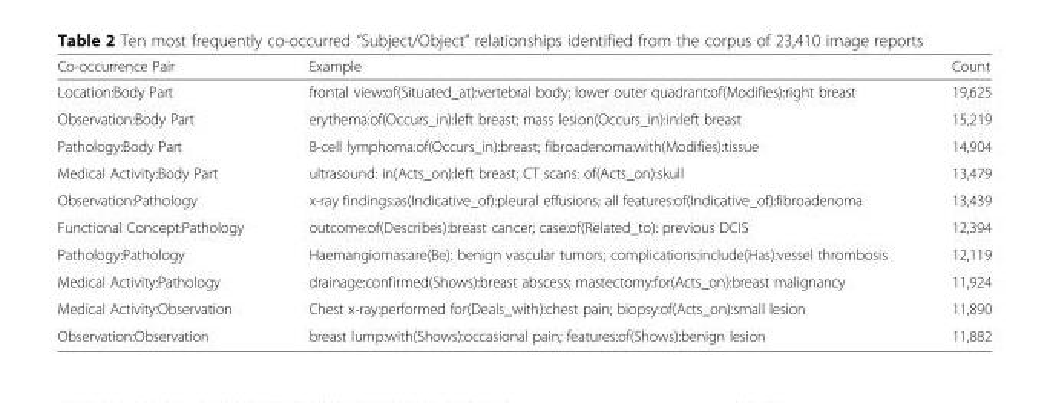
<table><thead><tr><td>Co-occurrence Pair</td><td>Example</td><td>Count</td></tr></thead><tbody><tr><td>Location:Body Part</td><td>frontal view:of(Situated_at):vertebral body; lower outer quadrant:of(Modifies):right breast</td><td>19,625</td></tr><tr><td>Observation:Body Part</td><td>erythema:of(Occurs_in):left breast; mass lesion(Occurs_in):in:left breast</td><td>15,219</td></tr><tr><td>Pathology:Body Part</td><td>B-cell lymphoma:of(Occurs_in):breast; fibroadenoma:with(Modifies):tissue</td><td>14,904</td></tr><tr><td>Medical Activity:Body Part</td><td>ultrasound: in(Acts_on):left breast; CT scans: of(Acts_on):skull</td><td>13,479</td></tr><tr><td>Observation:Pathology</td><td>x-ray findings:as(Indicative_of):pleural effusions; all features:of(Indicative_of):fibroadenoma</td><td>13,439</td></tr><tr><td>Functional Concept:Pathology</td><td>outcome:of(Describes):breast cancer; case:of(Related_to): previous DCIS</td><td>12,394</td></tr><tr><td>Pathology:Pathology</td><td>Haemangiomas:are(Be): benign vascular tumors; complications:include(Has):vessel thrombosis</td><td>12,119</td></tr><tr><td>Medical Activity:Pathology</td><td>drainage:confirmed(Shows):breast abscess; mastectomy:for(Acts_on):breast malignancy</td><td>11,924</td></tr><tr><td>Medical Activity:Observation</td><td>Chest x-ray:performed for(Deals_with):chest pain; biopsy:of(Acts_on):small lesion</td><td>11,890</td></tr><tr><td>Observation:Observation</td><td>breast lump:with(Shows):occasional pain; features:of(Shows):benign lesion</td><td>11,882</td></tr></tbody></table>